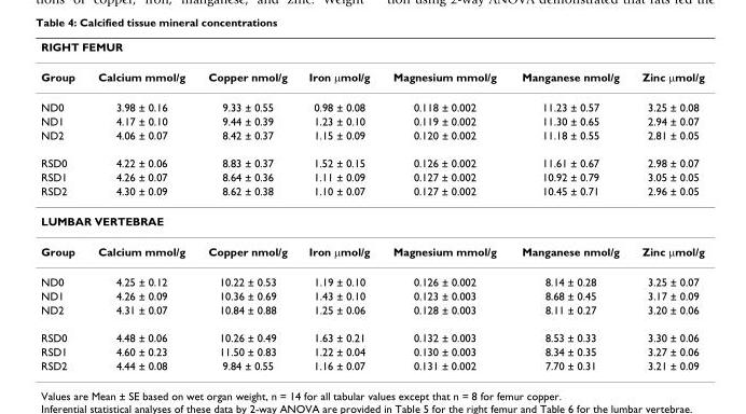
<table><thead><tr><td colspan="7">RIGHT FEMUR</td></tr><tr><td>Group</td><td>Calcium mmol/g</td><td>Copper nmol/g</td><td>Iron μmol/g</td><td>Magnesium mmol/g</td><td>Manganese nmol/g</td><td>Zinc μmol/g</td></tr></thead><tbody><tr><td>ND0</td><td>3.98 ± 0.16</td><td>9.33 ± 0.55</td><td>0.98 ± 0.08</td><td>0.118 ± 0.002</td><td>11.23 ± 0.57</td><td>3.25 ± 0.08</td></tr><tr><td>ND1</td><td>4.17 ± 0.10</td><td>9.44 ± 0.39</td><td>1.23 ± 0.10</td><td>0.119 ± 0.002</td><td>11.30 ± 0.65</td><td>2.94 ± 0.07</td></tr><tr><td>ND2</td><td>4.06 ± 0.07</td><td>8.42 ± 0.37</td><td>1.15 ± 0.09</td><td>0.120 ± 0.002</td><td>11.18 ± 0.55</td><td>2.81 ± 0.05</td></tr><tr><td>RSD0</td><td>4.22 ± 0.06</td><td>8.83 ± 0.37</td><td>1.52 ± 0.15</td><td>0.126 ± 0.002</td><td>11.61 ± 0.67</td><td>2.98 ± 0.07</td></tr><tr><td>RSD1</td><td>4.26 ± 0.07</td><td>8.64 ± 0.36</td><td>1.11 ± 0.09</td><td>0.127 ± 0.002</td><td>10.92 ± 0.79</td><td>3.05 ± 0.05</td></tr><tr><td>RSD2</td><td>4.30 ± 0.09</td><td>8.62 ± 0.38</td><td>1.10 ± 0.07</td><td>0.127 ± 0.002</td><td>10.45 ± 0.71</td><td>2.96 ± 0.05</td></tr><tr><td colspan="7">LUMBAR VERTEBRAE</td></tr><tr><td>Group</td><td>Calcium mmol/g</td><td>Copper nmol/g</td><td>Iron μmol/g</td><td>Magnesium mmol/g</td><td>Manganese nmol/g</td><td>Zinc μmol/g</td></tr><tr><td>ND0</td><td>4.25 ± 0.12</td><td>10.22 ± 0.53</td><td>1.19 ± 0.10</td><td>0.126 ± 0.002</td><td>8.14 ± 0.28</td><td>3.25 ± 0.07</td></tr><tr><td>ND1</td><td>4.26 ± 0.09</td><td>10.36 ± 0.69</td><td>1.43 ± 0.10</td><td>0.123 ± 0.003</td><td>8.68 ± 0.45</td><td>3.17 ± 0.09</td></tr><tr><td>ND2</td><td>4.31 ± 0.07</td><td>10.84 ± 0.88</td><td>1.25 ± 0.06</td><td>0.128 ± 0.003</td><td>8.11 ± 0.27</td><td>3.20 ± 0.06</td></tr><tr><td>RSD0</td><td>4.48 ± 0.06</td><td>10.26 ± 0.49</td><td>1.63 ± 0.21</td><td>0.132 ± 0.003</td><td>8.53 ± 0.33</td><td>3.30 ± 0.06</td></tr><tr><td>RSD1</td><td>4.60 ± 0.23</td><td>11.50 ± 0.83</td><td>1.22 ± 0.04</td><td>0.130 ± 0.003</td><td>8.34 ± 0.35</td><td>3.27 ± 0.06</td></tr><tr><td>RSD2</td><td>4.44 ± 0.08</td><td>9.84 ± 0.55</td><td>1.16 ± 0.07</td><td>0.131 ± 0.002</td><td>7.70 ± 0.31</td><td>3.21 ± 0.09</td></tr></tbody></table>